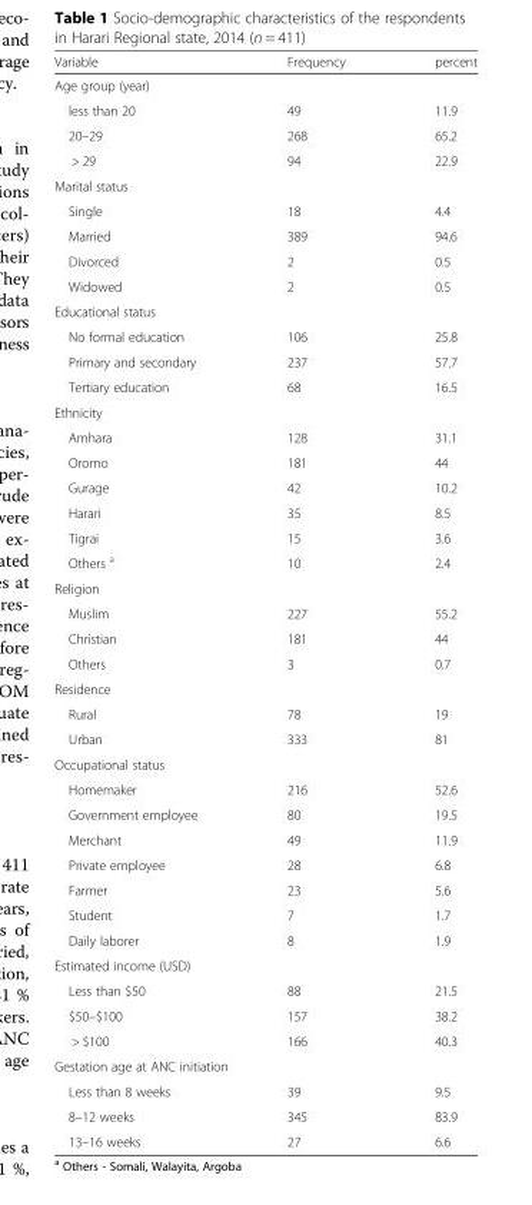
<table><thead><tr><td>Variable</td><td>Frequency</td><td>percent</td></tr></thead><tbody><tr><td colspan="3">Age group (year)</td></tr><tr><td>less than 20</td><td>49</td><td>11.9</td></tr><tr><td>20–29</td><td>268</td><td>65.2</td></tr><tr><td>&gt; 29</td><td>94</td><td>22.9</td></tr><tr><td colspan="3">Marital status</td></tr><tr><td>Single</td><td>18</td><td>4.4</td></tr><tr><td>Married</td><td>389</td><td>94.6</td></tr><tr><td>Divorced</td><td>2</td><td>0.5</td></tr><tr><td>Widowed</td><td>2</td><td>0.5</td></tr><tr><td colspan="3">Educational status</td></tr><tr><td>No formal education</td><td>106</td><td>25.8</td></tr><tr><td>Primary and secondary</td><td>237</td><td>57.7</td></tr><tr><td>Tertiary education</td><td>68</td><td>16.5</td></tr><tr><td colspan="3">Ethnicity</td></tr><tr><td>Amhara</td><td>128</td><td>31.1</td></tr><tr><td>Oromo</td><td>181</td><td>44</td></tr><tr><td>Gurage</td><td>42</td><td>10.2</td></tr><tr><td>Harari</td><td>35</td><td>8.5</td></tr><tr><td>Tigrai</td><td>15</td><td>3.6</td></tr><tr><td>Others <sup>a</sup></td><td>10</td><td>2.4</td></tr><tr><td colspan="3">Religion</td></tr><tr><td>Muslim</td><td>227</td><td>55.2</td></tr><tr><td>Christian</td><td>181</td><td>44</td></tr><tr><td>Others</td><td>3</td><td>0.7</td></tr><tr><td colspan="3">Residence</td></tr><tr><td>Rural</td><td>78</td><td>19</td></tr><tr><td>Urban</td><td>333</td><td>81</td></tr><tr><td colspan="3">Occupational status</td></tr><tr><td>Homemaker</td><td>216</td><td>52.6</td></tr><tr><td>Government employee</td><td>80</td><td>19.5</td></tr><tr><td>Merchant</td><td>49</td><td>11.9</td></tr><tr><td>Private employee</td><td>28</td><td>6.8</td></tr><tr><td>Farmer</td><td>23</td><td>5.6</td></tr><tr><td>Student</td><td>7</td><td>1.7</td></tr><tr><td>Daily laborer</td><td>8</td><td>1.9</td></tr><tr><td colspan="3">Estimated income (USD)</td></tr><tr><td>Less than $50</td><td>88</td><td>21.5</td></tr><tr><td>$50–$100</td><td>157</td><td>38.2</td></tr><tr><td>&gt; $100</td><td>166</td><td>40.3</td></tr><tr><td colspan="3">Gestation age at ANC initiation</td></tr><tr><td>Less than 8 weeks</td><td>39</td><td>9.5</td></tr><tr><td>8–12 weeks</td><td>345</td><td>83.9</td></tr><tr><td>13–16 weeks</td><td>27</td><td>6.6</td></tr></tbody></table>